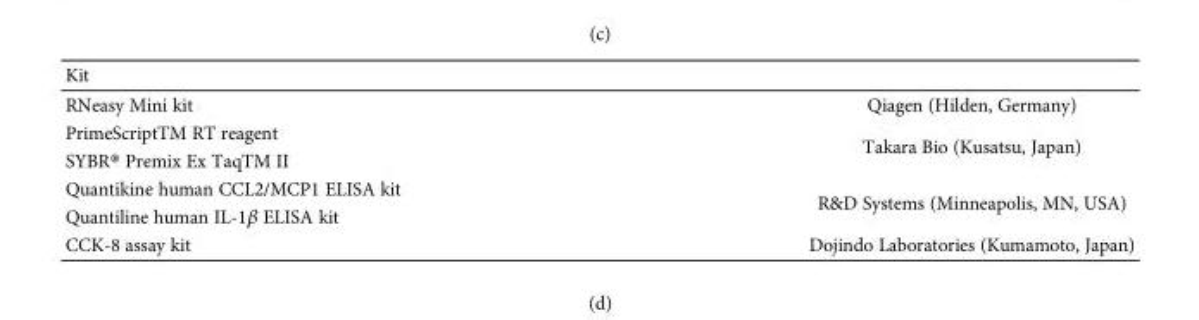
<table><thead><tr><td colspan="2">Kit</td></tr><tr><td>RNeasy Mini kit</td><td>Qiagen (Hilden, Germany)</td></tr></thead><tbody><tr><td>PrimeScriptTM RT reagent</td><td rowspan="2">Takara Bio (Kusatsu, Japan)</td></tr><tr><td>SYBR® Premix Ex TaqTM II</td></tr><tr><td>Quantikine human CCL2/MCP1 ELISA kit</td><td rowspan="2">R&amp;D Systems (Minneapolis, MN, USA)</td></tr><tr><td>Quantiline human IL-1β ELISA kit</td></tr><tr><td>CCK-8 assay kit</td><td>Dojindo Laboratories (Kumamoto, Japan)</td></tr></tbody></table>